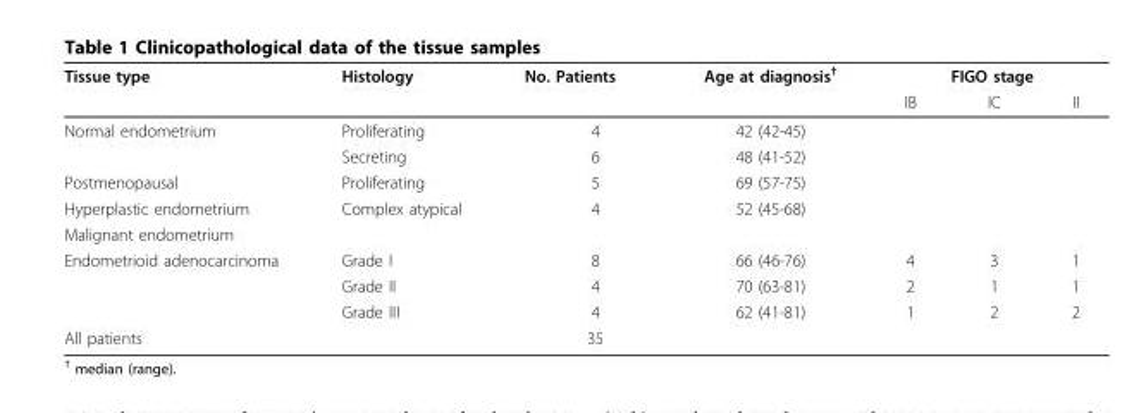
<table><thead><tr><td rowspan="2">Tissue type</td><td rowspan="2">Histology</td><td rowspan="2">No. Patients</td><td rowspan="2">Age at diagnosis<sup>†</sup></td><td colspan="3">FIGO stage</td></tr><tr><td>IB</td><td>IC</td><td>II</td></tr></thead><tbody><tr><td rowspan="2">Normal endometrium</td><td>Proliferating</td><td>4</td><td>42 (42-45)</td><td></td><td></td><td></td></tr><tr><td>Secreting</td><td>6</td><td>48 (41-52)</td><td></td><td></td><td></td></tr><tr><td>Postmenopausal</td><td>Proliferating</td><td>5</td><td>69 (57-75)</td><td></td><td></td><td></td></tr><tr><td>Hyperplastic endometrium</td><td>Complex atypical</td><td>4</td><td>52 (45-68)</td><td></td><td></td><td></td></tr><tr><td colspan="7">Malignant endometrium</td></tr><tr><td rowspan="3">Endometrioid adenocarcinoma</td><td>Grade I</td><td>8</td><td>66 (46-76)</td><td>4</td><td>3</td><td>1</td></tr><tr><td>Grade II</td><td>4</td><td>70 (63-81)</td><td>2</td><td>1</td><td>1</td></tr><tr><td>Grade III</td><td>4</td><td>62 (41-81)</td><td>1</td><td>2</td><td>2</td></tr><tr><td>All patients</td><td></td><td>35</td><td></td><td></td><td></td><td></td></tr></tbody></table>